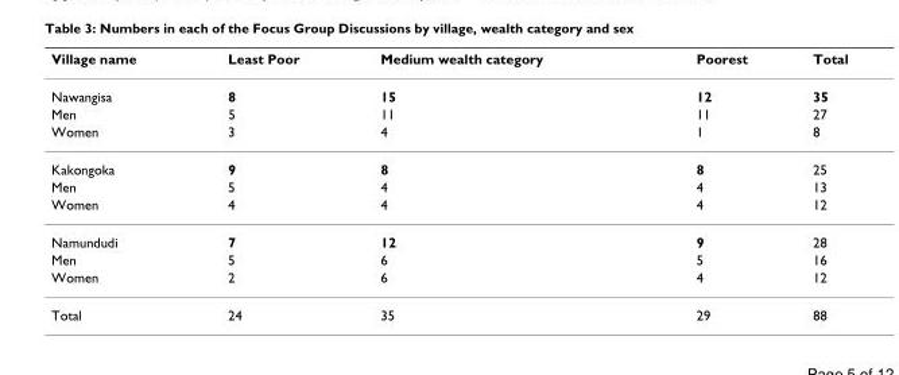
<table><thead><tr><td>Village name</td><td>Least Poor</td><td>Medium wealth category</td><td>Poorest</td><td>Total</td></tr></thead><tbody><tr><td>Nawangisa</td><td>8</td><td>15</td><td>12</td><td>35</td></tr><tr><td>Men</td><td>5</td><td>11</td><td>11</td><td>27</td></tr><tr><td>Women</td><td>3</td><td>4</td><td>1</td><td>8</td></tr><tr><td>Kakongoka</td><td>9</td><td>8</td><td>8</td><td>25</td></tr><tr><td>Men</td><td>5</td><td>4</td><td>4</td><td>13</td></tr><tr><td>Women</td><td>4</td><td>4</td><td>4</td><td>12</td></tr><tr><td>Namundudi</td><td>7</td><td>12</td><td>9</td><td>28</td></tr><tr><td>Men</td><td>5</td><td>6</td><td>5</td><td>16</td></tr><tr><td>Women</td><td>2</td><td>6</td><td>4</td><td>12</td></tr><tr><td>Total</td><td>24</td><td>35</td><td>29</td><td>88</td></tr></tbody></table>